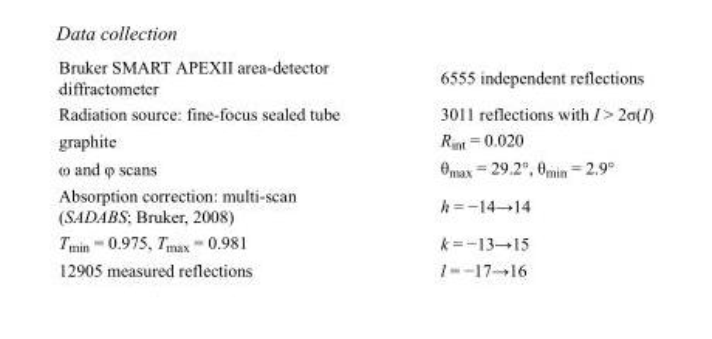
<table><tbody><tr><td>Bruker SMART APEXII area-detector diffractometer</td><td>6555 independent reflections</td></tr><tr><td>Radiation source: fine-focus sealed tube</td><td>3011 reflections with I &gt; 2σ(I)</td></tr><tr><td>graphite</td><td>R<sub>int</sub> = 0.020</td></tr><tr><td>ω and φ scans</td><td>θ<sub>max</sub> = 29.2°, θ<sub>min</sub> = 2.9°</td></tr><tr><td>Absorption correction: multi-scan (SADABS; Bruker, 2008)</td><td>h = −14→14</td></tr><tr><td>T<sub>min</sub> = 0.975, T<sub>max</sub> = 0.981</td><td>k = −13→15</td></tr><tr><td>12905 measured reflections</td><td>l = −17→16</td></tr></tbody></table>